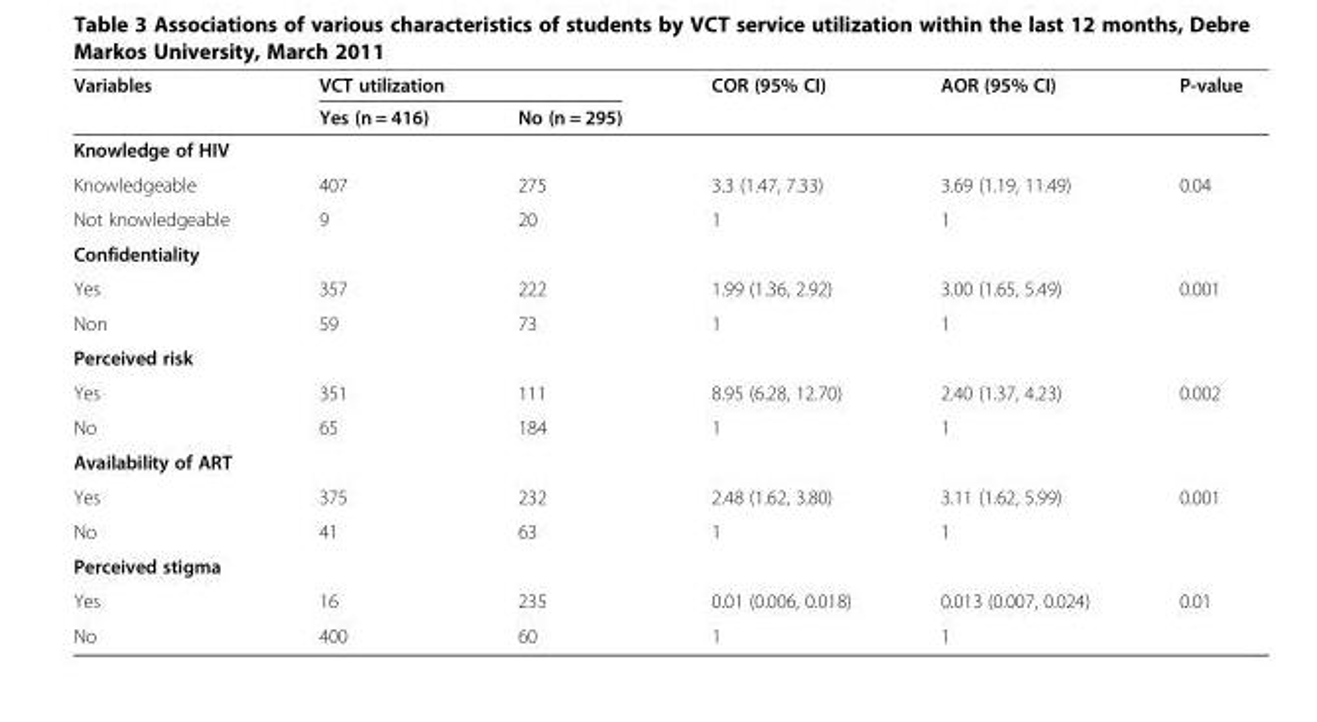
<table><thead><tr><td rowspan="2">Variables</td><td colspan="2">VCT utilization</td><td rowspan="2">COR (95% CI)</td><td rowspan="2">AOR (95% CI)</td><td rowspan="2">P-value</td></tr><tr><td>Yes (n = 416)</td><td>No (n = 295)</td></tr></thead><tbody><tr><td colspan="6">Knowledge of HIV</td></tr><tr><td>Knowledgeable</td><td>407</td><td>275</td><td>3.3 (1.47, 7.33)</td><td>3.69 (1.19, 11.49)</td><td>0.04</td></tr><tr><td>Not knowledgeable</td><td>9</td><td>20</td><td>1</td><td>1</td><td></td></tr><tr><td colspan="6">Confidentiality</td></tr><tr><td>Yes</td><td>357</td><td>222</td><td>1.99 (1.36, 2.92)</td><td>3.00 (1.65, 5.49)</td><td>0.001</td></tr><tr><td>Non</td><td>59</td><td>73</td><td>1</td><td>1</td><td></td></tr><tr><td colspan="6">Perceived risk</td></tr><tr><td>Yes</td><td>351</td><td>111</td><td>8.95 (6.28, 12.70)</td><td>2.40 (1.37, 4.23)</td><td>0.002</td></tr><tr><td>No</td><td>65</td><td>184</td><td>1</td><td>1</td><td></td></tr><tr><td colspan="6">Availability of ART</td></tr><tr><td>Yes</td><td>375</td><td>232</td><td>2.48 (1.62, 3.80)</td><td>3.11 (1.62, 5.99)</td><td>0.001</td></tr><tr><td>No</td><td>41</td><td>63</td><td>1</td><td>1</td><td></td></tr><tr><td colspan="6">Perceived stigma</td></tr><tr><td>Yes</td><td>16</td><td>235</td><td>0.01 (0.006, 0.018)</td><td>0.013 (0.007, 0.024)</td><td>0.01</td></tr><tr><td>No</td><td>400</td><td>60</td><td>1</td><td>1</td><td></td></tr></tbody></table>